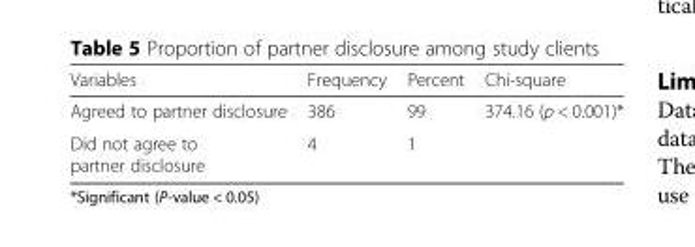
<table><thead><tr><td>Variables</td><td>Frequency</td><td>Percent</td><td>Chi-square</td></tr></thead><tbody><tr><td>Agreed to partner disclosure</td><td>386</td><td>99</td><td>374.16 (p &lt; 0.001)*</td></tr><tr><td>Did not agree to partner disclosure</td><td>4</td><td>1</td><td></td></tr></tbody></table>